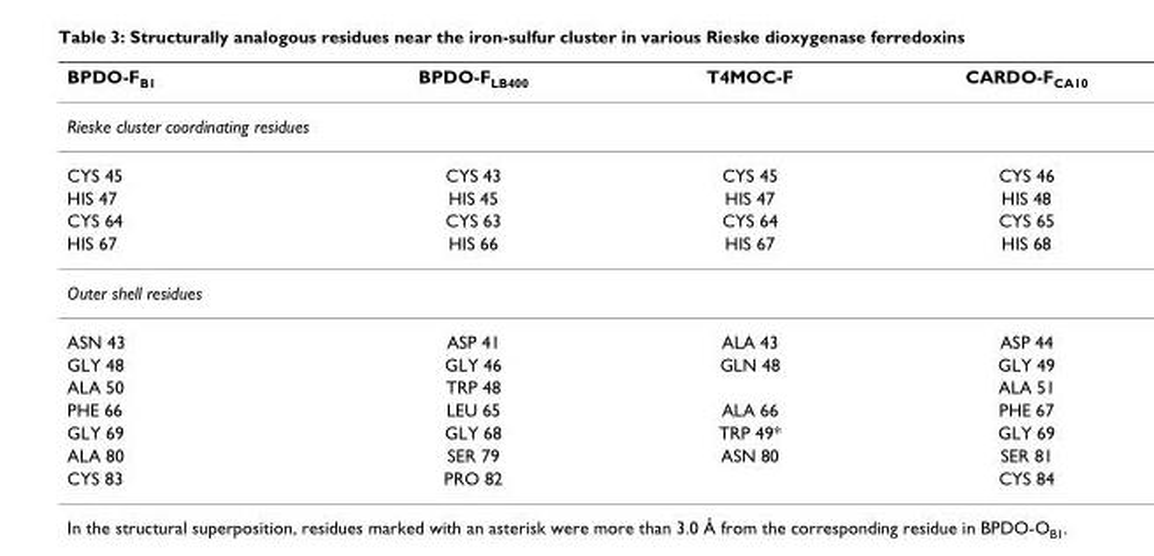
<table><thead><tr><td>BPDO-FB1</td><td>BPDO-FLB400</td><td>T4MOC-F</td><td>CARDO-FCA10</td></tr></thead><tbody><tr><td colspan="4">Rieske cluster coordinating residues</td></tr><tr><td>CYS 45</td><td>CYS 43</td><td>CYS 45</td><td>CYS 46</td></tr><tr><td>HIS 47</td><td>HIS 45</td><td>HIS 47</td><td>HIS 48</td></tr><tr><td>CYS 64</td><td>CYS 63</td><td>CYS 64</td><td>CYS 65</td></tr><tr><td>HIS 67</td><td>HIS 66</td><td>HIS 67</td><td>HIS 68</td></tr><tr><td colspan="4">Outer shell residues</td></tr><tr><td>ASN 43</td><td>ASP 41</td><td>ALA 43</td><td>ASP 44</td></tr><tr><td>GLY 48</td><td>GLY 46</td><td>GLN 48</td><td>GLY 49</td></tr><tr><td>ALA 50</td><td>TRP 48</td><td></td><td>ALA 51</td></tr><tr><td>PHE 66</td><td>LEU 65</td><td>ALA 66</td><td>PHE 67</td></tr><tr><td>GLY 69</td><td>GLY 68</td><td>TRP 49*</td><td>GLY 69</td></tr><tr><td>ALA 80</td><td>SER 79</td><td>ASN 80</td><td>SER 81</td></tr><tr><td>CYS 83</td><td>PRO 82</td><td></td><td>CYS 84</td></tr></tbody></table>